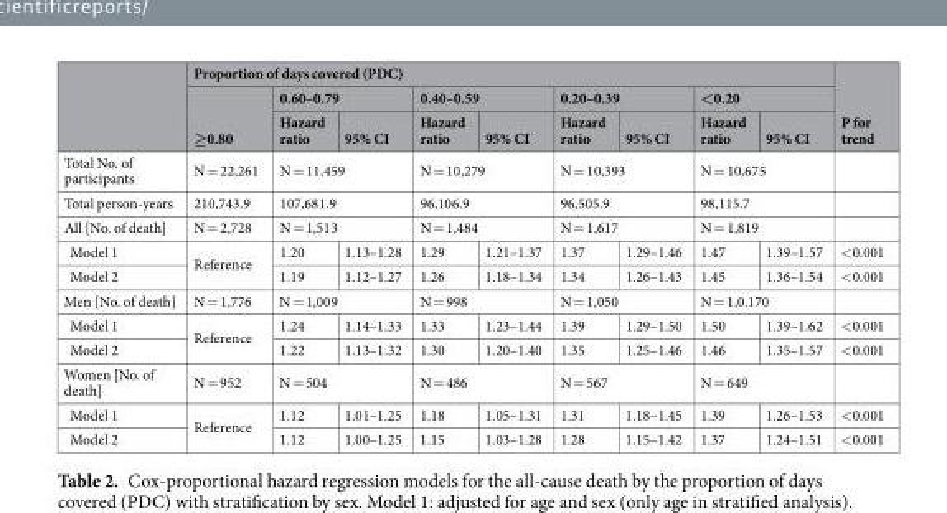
<table><thead><tr><td rowspan="3"></td><td colspan="9">Proportion of days covered (PDC)</td><td rowspan="3">P for trend</td></tr><tr><td rowspan="2">≥0.80</td><td colspan="2">0.60–0.79</td><td colspan="2">0.40–0.59</td><td colspan="2">0.20–0.39</td><td colspan="2">&lt;0.20</td></tr><tr><td>Hazard ratio</td><td>95% CI</td><td>Hazard ratio</td><td>95% CI</td><td>Hazard ratio</td><td>95% CI</td><td>Hazard ratio</td><td>95% CI</td></tr></thead><tbody><tr><td>Total No. of participants</td><td>N = 22,261</td><td colspan="2">N = 11,459</td><td colspan="2">N = 10,279</td><td colspan="2">N = 10,393</td><td colspan="2">N = 10,675</td><td></td></tr><tr><td>Total person-years</td><td>210,743.9</td><td colspan="2">107,681.9</td><td colspan="2">96,106.9</td><td colspan="2">96,505.9</td><td colspan="2">98,115.7</td><td></td></tr><tr><td>All [No. of death]</td><td>N = 2,728</td><td colspan="2">N = 1,513</td><td colspan="2">N = 1,484</td><td colspan="2">N = 1,617</td><td colspan="2">N = 1,819</td><td></td></tr><tr><td>Model 1</td><td rowspan="2">Reference</td><td>1.20</td><td>1.13–1.28</td><td>1.29</td><td>1.21–1.37</td><td>1.37</td><td>1.29–1.46</td><td>1.47</td><td>1.39–1.57</td><td>&lt;0.001</td></tr><tr><td>Model 2</td><td>1.19</td><td>1.12–1.27</td><td>1.26</td><td>1.18–1.34</td><td>1.34</td><td>1.26–1.43</td><td>1.45</td><td>1.36–1.54</td><td>&lt;0.001</td></tr><tr><td>Men [No. of death]</td><td>N = 1,776</td><td colspan="2">N = 1,009</td><td colspan="2">N = 998</td><td colspan="2">N = 1,050</td><td colspan="2">N = 1,0.170</td><td></td></tr><tr><td>Model 1</td><td rowspan="2">Reference</td><td>1.24</td><td>1.14–1.33</td><td>1.33</td><td>1.23–1.44</td><td>1.39</td><td>1.29–1.50</td><td>1.50</td><td>1.39–1.62</td><td>&lt;0.001</td></tr><tr><td>Model 2</td><td>1.22</td><td>1.13–1.32</td><td>1.30</td><td>1.20–1.40</td><td>1.35</td><td>1.25–1.46</td><td>1.46</td><td>1.35–1.57</td><td>&lt;0.001</td></tr><tr><td>Women [No. of death]</td><td>N = 952</td><td colspan="2">N = 504</td><td colspan="2">N = 486</td><td colspan="2">N = 567</td><td colspan="2">N = 649</td><td></td></tr><tr><td>Model 1</td><td rowspan="2">Reference</td><td>1.12</td><td>1.01–1.25</td><td>1.18</td><td>1.05–1.31</td><td>1.31</td><td>1.18–1.45</td><td>1.39</td><td>1.26–1.53</td><td>&lt;0.001</td></tr><tr><td>Model 2</td><td>1.12</td><td>1.00–1.25</td><td>1.15</td><td>1.03–1.28</td><td>1.28</td><td>1.15–1.42</td><td>1.37</td><td>1.24–1.51</td><td>&lt;0.001</td></tr></tbody></table>